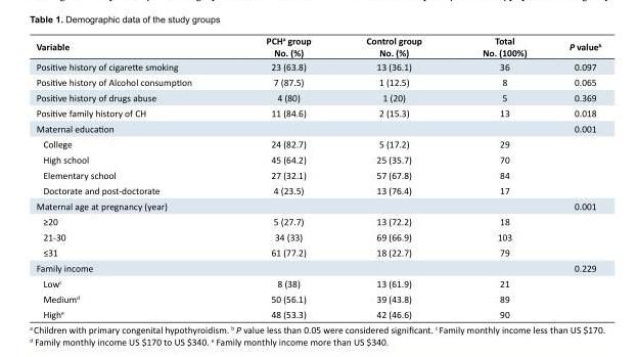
<table><tbody><tr><td>Variable</td><td>PCH<sup>a</sup> group No. (%)</td><td>Control group No. (%)</td><td>Total No. (100%)</td><td>P value<sup>b</sup></td></tr><tr><td>Positive history of cigarette smoking</td><td>23 (63.8)</td><td>13 (36.1)</td><td>36</td><td>0.097</td></tr><tr><td>Positive history of Alcohol consumption</td><td>7 (87.5)</td><td>1 (12.5)</td><td>8</td><td>0.065</td></tr><tr><td>Positive history of drugs abuse</td><td>4 (80)</td><td>1 (20)</td><td>5</td><td>0.369</td></tr><tr><td>Positive family history of CH</td><td>11 (84.6)</td><td>2 (15.3)</td><td>13</td><td>0.018</td></tr><tr><td>Maternal education</td><td></td><td></td><td></td><td>0.001</td></tr><tr><td>College</td><td>24 (82.7)</td><td>5 (17.2)</td><td>29</td><td></td></tr><tr><td>High school</td><td>45 (64.2)</td><td>25 (35.7)</td><td>70</td><td></td></tr><tr><td>Elementary school</td><td>27 (32.1)</td><td>57 (67.8)</td><td>84</td><td></td></tr><tr><td>Doctorate and post-doctorate</td><td>4 (23.5)</td><td>13 (76.4)</td><td>17</td><td></td></tr><tr><td>Maternal age at pregnancy (year)</td><td></td><td></td><td></td><td>0.001</td></tr><tr><td>≥20</td><td>5 (27.7)</td><td>13 (72.2)</td><td>18</td><td></td></tr><tr><td>21-30</td><td>34 (33)</td><td>69 (66.9)</td><td>103</td><td></td></tr><tr><td>≤31</td><td>61 (77.2)</td><td>18 (22.7)</td><td>79</td><td></td></tr><tr><td>Family income</td><td></td><td></td><td></td><td>0.229</td></tr><tr><td>Low<sup>c</sup></td><td>8 (38)</td><td>13 (61.9)</td><td>21</td><td></td></tr><tr><td>Medium<sup>d</sup></td><td>50 (56.1)</td><td>39 (43.8)</td><td>89</td><td></td></tr><tr><td>High<sup>e</sup></td><td>48 (53.3)</td><td>42 (46.6)</td><td>90</td><td></td></tr></tbody></table>